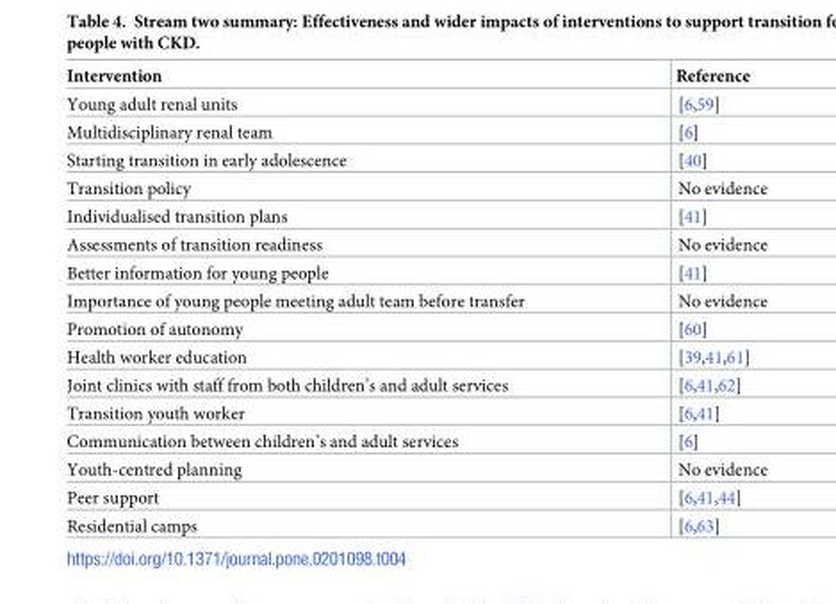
<table><thead><tr><td>Intervention</td><td>Reference</td></tr></thead><tbody><tr><td>Young adult renal units</td><td>[6,59]</td></tr><tr><td>Multidisciplinary renal team</td><td>[6]</td></tr><tr><td>Starting transition in early adolescence</td><td>[40]</td></tr><tr><td>Transition policy</td><td>No evidence</td></tr><tr><td>Individualised transition plans</td><td>[41]</td></tr><tr><td>Assessments of transition readiness</td><td>No evidence</td></tr><tr><td>Better information for young people</td><td>[41]</td></tr><tr><td>Importance of young people meeting adult team before transfer</td><td>No evidence</td></tr><tr><td>Promotion of autonomy</td><td>[60]</td></tr><tr><td>Health worker education</td><td>[39,41,61]</td></tr><tr><td>Joint clinics with staff from both children’s and adult services</td><td>[6,41,62]</td></tr><tr><td>Transition youth worker</td><td>[6,41]</td></tr><tr><td>Communication between children’s and adult services</td><td>[6]</td></tr><tr><td>Youth-centred planning</td><td>No evidence</td></tr><tr><td>Peer support</td><td>[6,41,44]</td></tr><tr><td>Residential camps</td><td>[6,63]</td></tr></tbody></table>